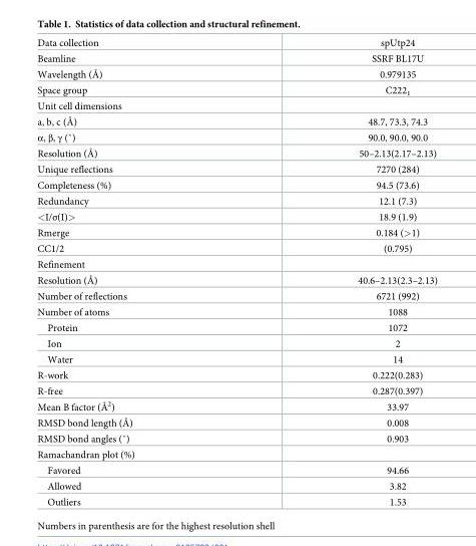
<table><tbody><tr><td>Data collection</td><td>spUtp24</td></tr><tr><td>Beamline</td><td>SSRF BL17U</td></tr><tr><td>Wavelength (Å)</td><td>0.979135</td></tr><tr><td>Space group</td><td>C222<sub>1</sub></td></tr><tr><td colspan="2">Unit cell dimensions</td></tr><tr><td>a, b, c (Å)</td><td>48.7, 73.3, 74.3</td></tr><tr><td>α, β, γ (˚)</td><td>90.0, 90.0, 90.0</td></tr><tr><td>Resolution (Å)</td><td>50–2.13(2.17–2.13)</td></tr><tr><td>Unique reflections</td><td>7270 (284)</td></tr><tr><td>Completeness (%)</td><td>94.5 (73.6)</td></tr><tr><td>Redundancy</td><td>12.1 (7.3)</td></tr><tr><td>&lt;I/σ(I)&gt;</td><td>18.9 (1.9)</td></tr><tr><td>Rmerge</td><td>0.184 (&gt;1)</td></tr><tr><td>CC1/2</td><td>(0.795)</td></tr><tr><td colspan="2">Refinement</td></tr><tr><td>Resolution (Å)</td><td>40.6–2.13(2.3–2.13)</td></tr><tr><td>Number of reflections</td><td>6721 (992)</td></tr><tr><td>Number of atoms</td><td>1088</td></tr><tr><td>Protein</td><td>1072</td></tr><tr><td>Ion</td><td>2</td></tr><tr><td>Water</td><td>14</td></tr><tr><td>R-work</td><td>0.222(0.283)</td></tr><tr><td>R-free</td><td>0.287(0.397)</td></tr><tr><td>Mean B factor (Å<sup>2</sup>)</td><td>33.97</td></tr><tr><td>RMSD bond length (Å)</td><td>0.008</td></tr><tr><td>RMSD bond angles (˚)</td><td>0.903</td></tr><tr><td colspan="2">Ramachandran plot (%)</td></tr><tr><td>Favored</td><td>94.66</td></tr><tr><td>Allowed</td><td>3.82</td></tr><tr><td>Outliers</td><td>1.53</td></tr></tbody></table>